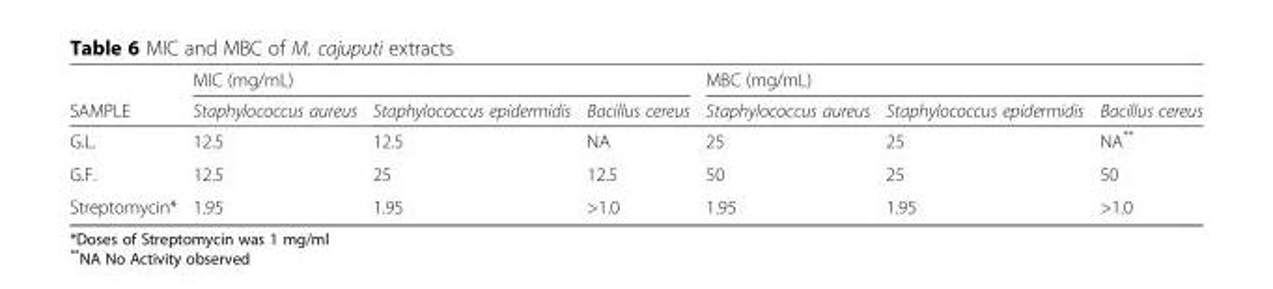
<table><thead><tr><td rowspan="2">SAMPLE</td><td colspan="3">MIC (mg/mL)</td><td colspan="3">MBC (mg/mL)</td></tr><tr><td>Staphylococcus aureus</td><td>Staphylococcus epidermidis</td><td>Bacillus cereus</td><td>Staphylococcus aureus</td><td>Staphylococcus epidermidis</td><td>Bacillus cereus</td></tr></thead><tbody><tr><td>G.L.</td><td>12.5</td><td>12.5</td><td>NA</td><td>25</td><td>25</td><td>NA**</td></tr><tr><td>G.F.</td><td>12.5</td><td>25</td><td>12.5</td><td>50</td><td>25</td><td>50</td></tr><tr><td>Streptomycin*</td><td>1.95</td><td>1.95</td><td>&gt;1.0</td><td>1.95</td><td>1.95</td><td>&gt;1.0</td></tr></tbody></table>